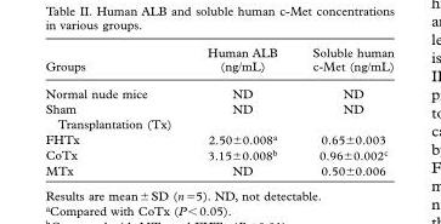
<table><thead><tr><td>Groups</td><td>Human ALB (ng/mL)</td><td>Soluble human c-Met (ng/mL)</td></tr></thead><tbody><tr><td>Normal nude mice</td><td>ND</td><td>ND</td></tr><tr><td>Sham</td><td>ND</td><td>ND</td></tr><tr><td colspan="3">Transplantation (Tx)</td></tr><tr><td>FHTx</td><td>2.50±0.008 <sup>a</sup></td><td>0.65±0.003</td></tr><tr><td>CoTx</td><td>3.15±0.008 <sup>b</sup></td><td>0.96±0.002 <sup>c</sup></td></tr><tr><td>MTx</td><td>ND</td><td>0.50±0.006</td></tr></tbody></table>